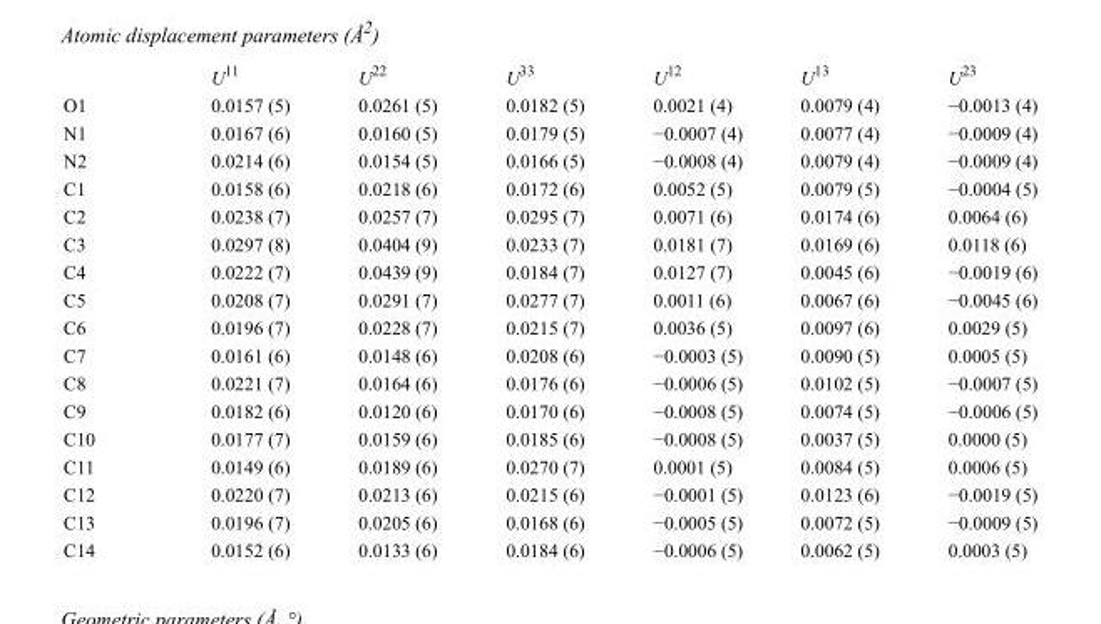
<table><thead><tr><td></td><td>U<sup>11</sup></td><td>U<sup>22</sup></td><td>U<sup>33</sup></td><td>U<sup>12</sup></td><td>U<sup>13</sup></td><td>U<sup>23</sup></td></tr></thead><tbody><tr><td>O1</td><td>0.0157 (5)</td><td>0.0261 (5)</td><td>0.0182 (5)</td><td>0.0021 (4)</td><td>0.0079 (4)</td><td>−0.0013 (4)</td></tr><tr><td>N1</td><td>0.0167 (6)</td><td>0.0160 (5)</td><td>0.0179 (5)</td><td>−0.0007 (4)</td><td>0.0077 (4)</td><td>−0.0009 (4)</td></tr><tr><td>N2</td><td>0.0214 (6)</td><td>0.0154 (5)</td><td>0.0166 (5)</td><td>−0.0008 (4)</td><td>0.0079 (4)</td><td>−0.0009 (4)</td></tr><tr><td>C1</td><td>0.0158 (6)</td><td>0.0218 (6)</td><td>0.0172 (6)</td><td>0.0052 (5)</td><td>0.0079 (5)</td><td>−0.0004 (5)</td></tr><tr><td>C2</td><td>0.0238 (7)</td><td>0.0257 (7)</td><td>0.0295 (7)</td><td>0.0071 (6)</td><td>0.0174 (6)</td><td>0.0064 (6)</td></tr><tr><td>C3</td><td>0.0297 (8)</td><td>0.0404 (9)</td><td>0.0233 (7)</td><td>0.0181 (7)</td><td>0.0169 (6)</td><td>0.0118 (6)</td></tr><tr><td>C4</td><td>0.0222 (7)</td><td>0.0439 (9)</td><td>0.0184 (7)</td><td>0.0127 (7)</td><td>0.0045 (6)</td><td>−0.0019 (6)</td></tr><tr><td>C5</td><td>0.0208 (7)</td><td>0.0291 (7)</td><td>0.0277 (7)</td><td>0.0011 (6)</td><td>0.0067 (6)</td><td>−0.0045 (6)</td></tr><tr><td>C6</td><td>0.0196 (7)</td><td>0.0228 (7)</td><td>0.0215 (7)</td><td>0.0036 (5)</td><td>0.0097 (6)</td><td>0.0029 (5)</td></tr><tr><td>C7</td><td>0.0161 (6)</td><td>0.0148 (6)</td><td>0.0208 (6)</td><td>−0.0003 (5)</td><td>0.0090 (5)</td><td>0.0005 (5)</td></tr><tr><td>C8</td><td>0.0221 (7)</td><td>0.0164 (6)</td><td>0.0176 (6)</td><td>−0.0006 (5)</td><td>0.0102 (5)</td><td>−0.0007 (5)</td></tr><tr><td>C9</td><td>0.0182 (6)</td><td>0.0120 (6)</td><td>0.0170 (6)</td><td>−0.0008 (5)</td><td>0.0074 (5)</td><td>−0.0006 (5)</td></tr><tr><td>C10</td><td>0.0177 (7)</td><td>0.0159 (6)</td><td>0.0185 (6)</td><td>−0.0008 (5)</td><td>0.0037 (5)</td><td>0.0000 (5)</td></tr><tr><td>C11</td><td>0.0149 (6)</td><td>0.0189 (6)</td><td>0.0270 (7)</td><td>0.0001 (5)</td><td>0.0084 (5)</td><td>0.0006 (5)</td></tr><tr><td>C12</td><td>0.0220 (7)</td><td>0.0213 (6)</td><td>0.0215 (6)</td><td>−0.0001 (5)</td><td>0.0123 (6)</td><td>−0.0019 (5)</td></tr><tr><td>C13</td><td>0.0196 (7)</td><td>0.0205 (6)</td><td>0.0168 (6)</td><td>−0.0005 (5)</td><td>0.0072 (5)</td><td>−0.0009 (5)</td></tr><tr><td>C14</td><td>0.0152 (6)</td><td>0.0133 (6)</td><td>0.0184 (6)</td><td>−0.0006 (5)</td><td>0.0062 (5)</td><td>0.0003 (5)</td></tr></tbody></table>